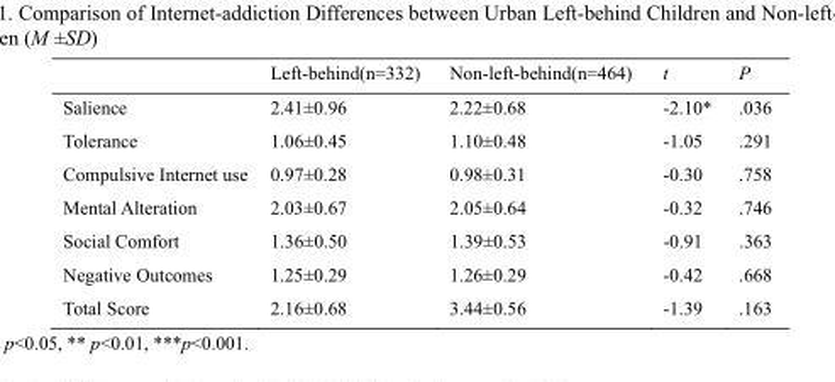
<table><thead><tr><td></td><td>Left-behind(n=332)</td><td>Non-left-behind(n=464)</td><td>t</td><td>P</td></tr></thead><tbody><tr><td>Salience</td><td>2.41±0.96</td><td>2.22±0.68</td><td>-2.10*</td><td>.036</td></tr><tr><td>Tolerance</td><td>1.06±0.45</td><td>1.10±0.48</td><td>-1.05</td><td>.291</td></tr><tr><td>Compulsive Internet use</td><td>0.97±0.28</td><td>0.98±0.31</td><td>-0.30</td><td>.758</td></tr><tr><td>Mental Alteration</td><td>2.03±0.67</td><td>2.05±0.64</td><td>-0.32</td><td>.746</td></tr><tr><td>Social Comfort</td><td>1.36±0.50</td><td>1.39±0.53</td><td>-0.91</td><td>.363</td></tr><tr><td>Negative Outcomes</td><td>1.25±0.29</td><td>1.26±0.29</td><td>-0.42</td><td>.668</td></tr><tr><td>Total Score</td><td>2.16±0.68</td><td>3.44±0.56</td><td>-1.39</td><td>.163</td></tr></tbody></table>